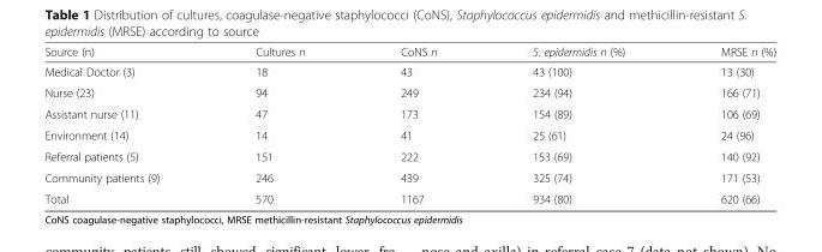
<table><thead><tr><td>Source (n)</td><td>Cultures n</td><td>CoNS n</td><td>S. epidermidis n (%)</td><td>MRSE n (%)</td></tr></thead><tbody><tr><td>Medical Doctor (3)</td><td>18</td><td>43</td><td>43 (100)</td><td>13 (30)</td></tr><tr><td>Nurse (23)</td><td>94</td><td>249</td><td>234 (94)</td><td>166 (71)</td></tr><tr><td>Assistant nurse (11)</td><td>47</td><td>173</td><td>154 (89)</td><td>106 (69)</td></tr><tr><td>Environment (14)</td><td>14</td><td>41</td><td>25 (61)</td><td>24 (96)</td></tr><tr><td>Referral patients (5)</td><td>151</td><td>222</td><td>153 (69)</td><td>140 (92)</td></tr><tr><td>Community patients (9)</td><td>246</td><td>439</td><td>325 (74)</td><td>171 (53)</td></tr><tr><td>Total</td><td>570</td><td>1167</td><td>934 (80)</td><td>620 (66)</td></tr></tbody></table>